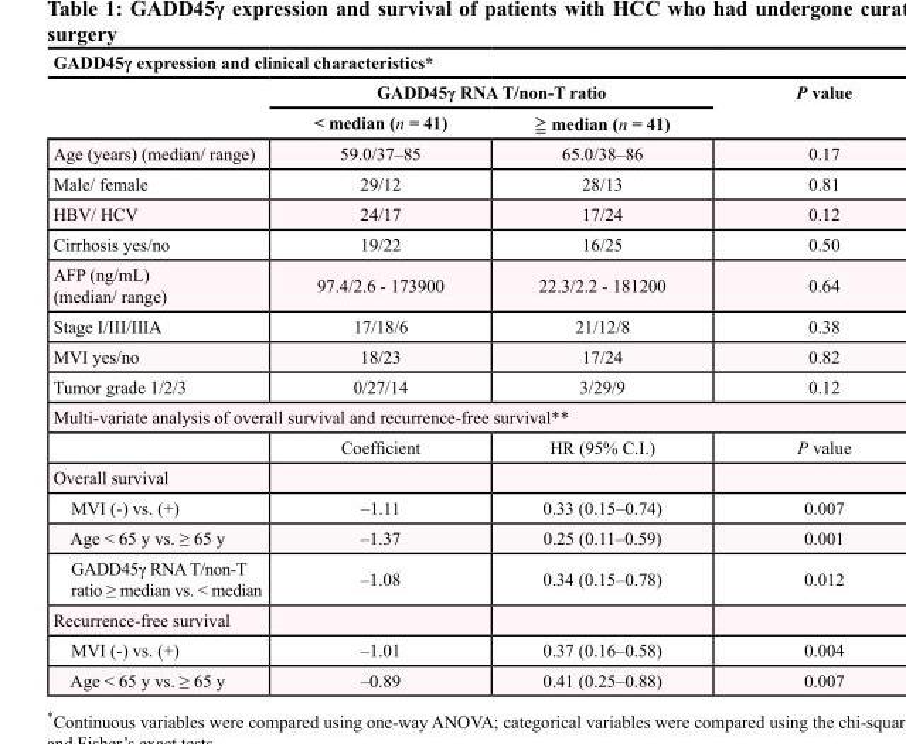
<table><thead><tr><td colspan="4">GADD45γ expression and clinical characteristics*</td></tr><tr><td rowspan="2"></td><td colspan="2">GADD45γ RNA T/non-T ratio</td><td rowspan="2">P value</td></tr><tr><td>&lt; median (n = 41)</td><td>≧ median (n = 41)</td></tr></thead><tbody><tr><td>Age (years) (median/ range)</td><td>59.0/37–85</td><td>65.0/38–86</td><td>0.17</td></tr><tr><td>Male/ female</td><td>29/12</td><td>28/13</td><td>0.81</td></tr><tr><td>HBV/ HCV</td><td>24/17</td><td>17/24</td><td>0.12</td></tr><tr><td>Cirrhosis yes/no</td><td>19/22</td><td>16/25</td><td>0.50</td></tr><tr><td>AFP (ng/mL) (median/ range)</td><td>97.4/2.6 - 173900</td><td>22.3/2.2 - 181200</td><td>0.64</td></tr><tr><td>Stage I/III/IIIA</td><td>17/18/6</td><td>21/12/8</td><td>0.38</td></tr><tr><td>MVI yes/no</td><td>18/23</td><td>17/24</td><td>0.82</td></tr><tr><td>Tumor grade 1/2/3</td><td>0/27/14</td><td>3/29/9</td><td>0.12</td></tr><tr><td colspan="4">Multi-variate analysis of overall survival and recurrence-free survival**</td></tr><tr><td></td><td>Coefficient</td><td>HR (95% C.I.)</td><td>P value</td></tr><tr><td colspan="4">Overall survival</td></tr><tr><td>MVI (-) vs. (+)</td><td>–1.11</td><td>0.33 (0.15–0.74)</td><td>0.007</td></tr><tr><td>Age &lt; 65 y vs. ≥ 65 y</td><td>–1.37</td><td>0.25 (0.11–0.59)</td><td>0.001</td></tr><tr><td>GADD45γ RNA T/non-T ratio ≥ median vs. &lt; median</td><td>–1.08</td><td>0.34 (0.15–0.78)</td><td>0.012</td></tr><tr><td colspan="4">Recurrence-free survival</td></tr><tr><td>MVI (-) vs. (+)</td><td>–1.01</td><td>0.37 (0.16–0.58)</td><td>0.004</td></tr><tr><td>Age &lt; 65 y vs. ≥ 65 y</td><td>–0.89</td><td>0.41 (0.25–0.88)</td><td>0.007</td></tr></tbody></table>